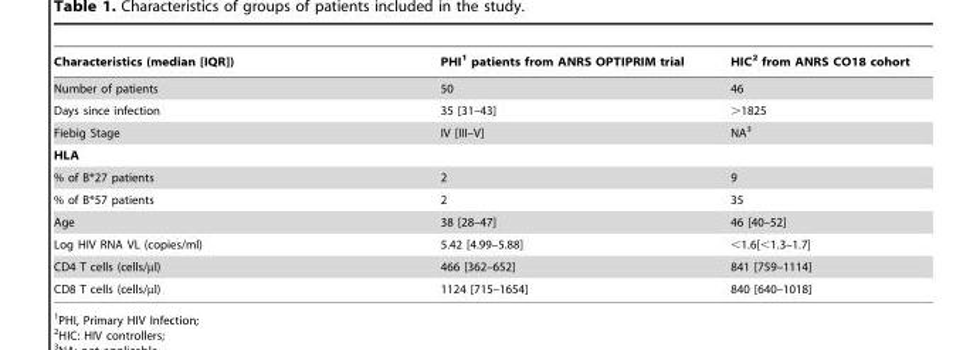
<table><thead><tr><td>Characteristics (median [IQR])</td><td>PHI<sup>1</sup> patients from ANRS OPTIPRIM trial</td><td>HIC<sup>2</sup> from ANRS CO18 cohort</td></tr></thead><tbody><tr><td>Number of patients</td><td>50</td><td>46</td></tr><tr><td>Days since infection</td><td>35 [31–43]</td><td>&gt;1825</td></tr><tr><td>Fiebig Stage</td><td>IV [III–V]</td><td>NA<sup>3</sup></td></tr><tr><td colspan="3">HLA</td></tr><tr><td>% of B*27 patients</td><td>2</td><td>9</td></tr><tr><td>% of B*57 patients</td><td>2</td><td>35</td></tr><tr><td>Age</td><td>38 [28–47]</td><td>46 [40–52]</td></tr><tr><td>Log HIV RNA VL (copies/ml)</td><td>5.42 [4.99–5.88]</td><td>&lt;1.6[&lt;1.3–1.7]</td></tr><tr><td>CD4 T cells (cells/µl)</td><td>466 [362–652]</td><td>841 [759–1114]</td></tr><tr><td>CD8 T cells (cells/µl)</td><td>1124 [715–1654]</td><td>840 [640–1018]</td></tr></tbody></table>